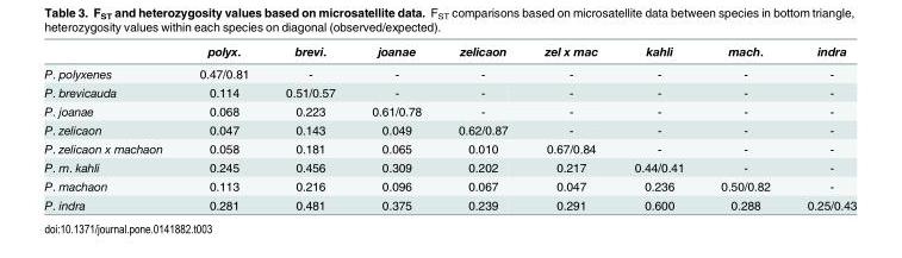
<table><thead><tr><td></td><td>polyx.</td><td>brevi.</td><td>joanae</td><td>zelicaon</td><td>zel x mac</td><td>kahli</td><td>mach.</td><td>indra</td></tr></thead><tbody><tr><td>P. polyxenes</td><td>0.47/0.81</td><td>-</td><td>-</td><td>-</td><td>-</td><td>-</td><td>-</td><td>-</td></tr><tr><td>P. brevicauda</td><td>0.114</td><td>0.51/0.57</td><td>-</td><td>-</td><td>-</td><td>-</td><td>-</td><td>-</td></tr><tr><td>P. joanae</td><td>0.068</td><td>0.223</td><td>0.61/0.78</td><td>-</td><td>-</td><td>-</td><td>-</td><td>-</td></tr><tr><td>P. zelicaon</td><td>0.047</td><td>0.143</td><td>0.049</td><td>0.62/0.87</td><td>-</td><td>-</td><td>-</td><td>-</td></tr><tr><td>P. zelicaon x machaon</td><td>0.058</td><td>0.181</td><td>0.065</td><td>0.010</td><td>0.67/0.84</td><td>-</td><td>-</td><td>-</td></tr><tr><td>P. m. kahli</td><td>0.245</td><td>0.456</td><td>0.309</td><td>0.202</td><td>0.217</td><td>0.44/0.41</td><td>-</td><td>-</td></tr><tr><td>P. machaon</td><td>0.113</td><td>0.216</td><td>0.096</td><td>0.067</td><td>0.047</td><td>0.236</td><td>0.50/0.82</td><td>-</td></tr><tr><td>P. indra</td><td>0.281</td><td>0.481</td><td>0.375</td><td>0.239</td><td>0.291</td><td>0.600</td><td>0.288</td><td>0.25/0.43</td></tr></tbody></table>